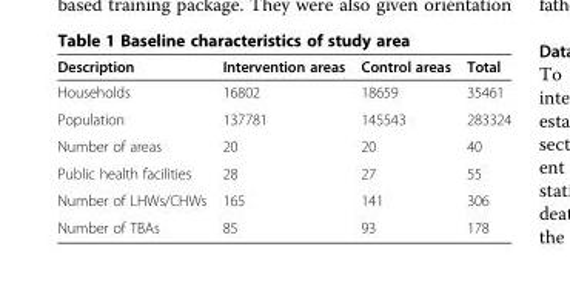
<table><thead><tr><td>Description</td><td>Intervention areas</td><td>Control areas</td><td>Total</td></tr></thead><tbody><tr><td>Households</td><td>16802</td><td>18659</td><td>35461</td></tr><tr><td>Population</td><td>137781</td><td>145543</td><td>283324</td></tr><tr><td>Number of areas</td><td>20</td><td>20</td><td>40</td></tr><tr><td>Public health facilities</td><td>28</td><td>27</td><td>55</td></tr><tr><td>Number of LHWs/CHWs</td><td>165</td><td>141</td><td>306</td></tr><tr><td>Number of TBAs</td><td>85</td><td>93</td><td>178</td></tr></tbody></table>